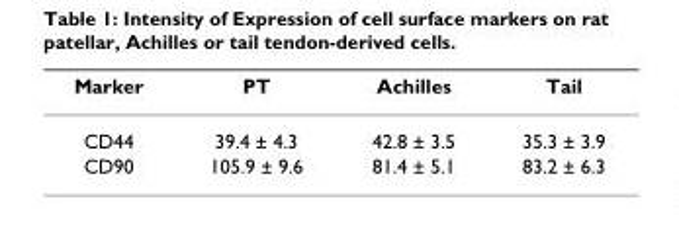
<table><thead><tr><td>Marker</td><td>PT</td><td>Achilles</td><td>Tail</td></tr></thead><tbody><tr><td>CD44</td><td>39.4 ± 4.3</td><td>42.8 ± 3.5</td><td>35.3 ± 3.9</td></tr><tr><td>CD90</td><td>105.9 ± 9.6</td><td>81.4 ± 5.1</td><td>83.2 ± 6.3</td></tr></tbody></table>